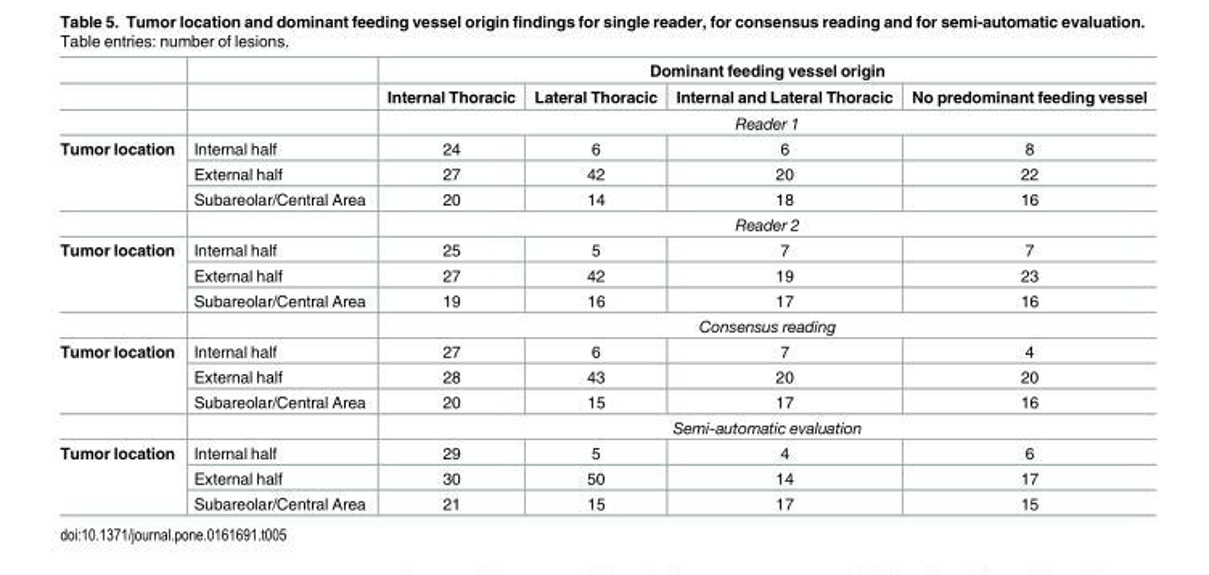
<table><thead><tr><td rowspan="2"></td><td rowspan="2"></td><td colspan="4">Dominant feeding vessel origin</td></tr><tr><td>Internal Thoracic</td><td>Lateral Thoracic</td><td>Internal and Lateral Thoracic</td><td>No predominant feeding vessel</td></tr></thead><tbody><tr><td></td><td></td><td colspan="4">Reader 1</td></tr><tr><td rowspan="4">Tumor location</td><td>Internal half</td><td>24</td><td>6</td><td>6</td><td>8</td></tr><tr><td>External half</td><td>27</td><td>42</td><td>20</td><td>22</td></tr><tr><td>Subareolar/Central Area</td><td>20</td><td>14</td><td>18</td><td>16</td></tr><tr><td></td><td colspan="4">Reader 2</td></tr><tr><td rowspan="4">Tumor location</td><td>Internal half</td><td>25</td><td>5</td><td>7</td><td>7</td></tr><tr><td>External half</td><td>27</td><td>42</td><td>19</td><td>23</td></tr><tr><td>Subareolar/Central Area</td><td>19</td><td>16</td><td>17</td><td>16</td></tr><tr><td></td><td colspan="4">Consensus reading</td></tr><tr><td rowspan="4">Tumor location</td><td>Internal half</td><td>27</td><td>6</td><td>7</td><td>4</td></tr><tr><td>External half</td><td>28</td><td>43</td><td>20</td><td>20</td></tr><tr><td>Subareolar/Central Area</td><td>20</td><td>15</td><td>17</td><td>16</td></tr><tr><td></td><td colspan="4">Semi-automatic evaluation</td></tr><tr><td rowspan="3">Tumor location</td><td>Internal half</td><td>29</td><td>5</td><td>4</td><td>6</td></tr><tr><td>External half</td><td>30</td><td>50</td><td>14</td><td>17</td></tr><tr><td>Subareolar/Central Area</td><td>21</td><td>15</td><td>17</td><td>15</td></tr></tbody></table>